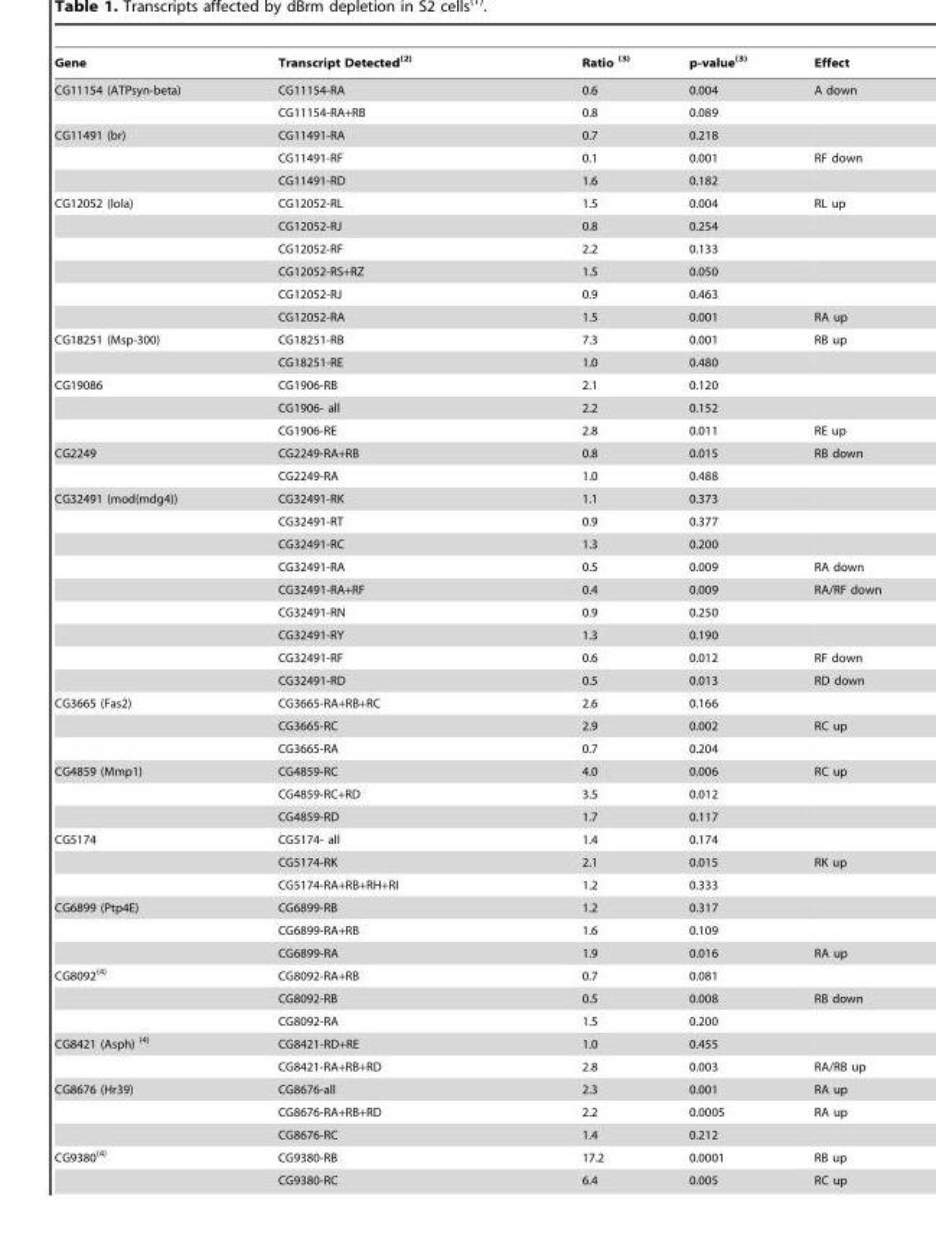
<table><thead><tr><td>Gene</td><td>Transcript Detected(2)</td><td>Ratio (3)</td><td>p-value(3)</td><td>Effect</td></tr></thead><tbody><tr><td rowspan="2">CG11154 (ATPsyn-beta)</td><td>CG11154-RA</td><td>0.6</td><td>0.004</td><td>A down</td></tr><tr><td>CG11154-RA+RB</td><td>0.8</td><td>0.089</td><td></td></tr><tr><td rowspan="3">CG11491 (br)</td><td>CG11491-RA</td><td>0.7</td><td>0.218</td><td></td></tr><tr><td>CG11491-RF</td><td>0.1</td><td>0.001</td><td>RF down</td></tr><tr><td>CG11491-RD</td><td>1.6</td><td>0.182</td><td></td></tr><tr><td rowspan="6">CG12052 (lola)</td><td>CG12052-RL</td><td>1.5</td><td>0.004</td><td>RL up</td></tr><tr><td>CG12052-RJ</td><td>0.8</td><td>0.254</td><td></td></tr><tr><td>CG12052-RF</td><td>2.2</td><td>0.133</td><td></td></tr><tr><td>CG12052-RS+RZ</td><td>1.5</td><td>0.050</td><td></td></tr><tr><td>CG12052-RJ</td><td>0.9</td><td>0.463</td><td></td></tr><tr><td>CG12052-RA</td><td>1.5</td><td>0.001</td><td>RA up</td></tr><tr><td rowspan="2">CG18251 (Msp-300)</td><td>CG18251-RB</td><td>7.3</td><td>0.001</td><td>RB up</td></tr><tr><td>CG18251-RE</td><td>1.0</td><td>0.480</td><td></td></tr><tr><td rowspan="3">CG19086</td><td>CG1906-RB</td><td>2.1</td><td>0.120</td><td></td></tr><tr><td>CG1906- all</td><td>2.2</td><td>0.152</td><td></td></tr><tr><td>CG1906-RE</td><td>2.8</td><td>0.011</td><td>RE up</td></tr><tr><td rowspan="2">CG2249</td><td>CG2249-RA+RB</td><td>0.8</td><td>0.015</td><td>RB down</td></tr><tr><td>CG2249-RA</td><td>1.0</td><td>0.488</td><td></td></tr><tr><td rowspan="9">CG32491 (mod(mdg4))</td><td>CG32491-RK</td><td>1.1</td><td>0.373</td><td></td></tr><tr><td>CG32491-RT</td><td>0.9</td><td>0.377</td><td></td></tr><tr><td>CG32491-RC</td><td>1.3</td><td>0.200</td><td></td></tr><tr><td>CG32491-RA</td><td>0.5</td><td>0.009</td><td>RA down</td></tr><tr><td>CG32491-RA+RF</td><td>0.4</td><td>0.009</td><td>RA/RF down</td></tr><tr><td>CG32491-RN</td><td>0.9</td><td>0.250</td><td></td></tr><tr><td>CG32491-RY</td><td>1.3</td><td>0.190</td><td></td></tr><tr><td>CG32491-RF</td><td>0.6</td><td>0.012</td><td>RF down</td></tr><tr><td>CG32491-RD</td><td>0.5</td><td>0.013</td><td>RD down</td></tr><tr><td rowspan="3">CG3665 (Fas2)</td><td>CG3665-RA+RB+RC</td><td>2.6</td><td>0.166</td><td></td></tr><tr><td>CG3665-RC</td><td>2.9</td><td>0.002</td><td>RC up</td></tr><tr><td>CG3665-RA</td><td>0.7</td><td>0.204</td><td></td></tr><tr><td rowspan="3">CG4859 (Mmp1)</td><td>CG4859-RC</td><td>4.0</td><td>0.006</td><td>RC up</td></tr><tr><td>CG4859-RC+RD</td><td>3.5</td><td>0.012</td><td></td></tr><tr><td>CG4859-RD</td><td>1.7</td><td>0.117</td><td></td></tr><tr><td rowspan="3">CG5174</td><td>CG5174- all</td><td>1.4</td><td>0.174</td><td></td></tr><tr><td>CG5174-RK</td><td>2.1</td><td>0.015</td><td>RK up</td></tr><tr><td>CG5174-RA+RB+RH+RI</td><td>1.2</td><td>0.333</td><td></td></tr><tr><td rowspan="3">CG6899 (Ptp4E)</td><td>CG6899-RB</td><td>1.2</td><td>0.317</td><td></td></tr><tr><td>CG6899-RA+RB</td><td>1.6</td><td>0.109</td><td></td></tr><tr><td>CG6899-RA</td><td>1.9</td><td>0.016</td><td>RA up</td></tr><tr><td rowspan="3">CG8092(4)</td><td>CG8092-RA+RB</td><td>0.7</td><td>0.081</td><td></td></tr><tr><td>CG8092-RB</td><td>0.5</td><td>0.008</td><td>RB down</td></tr><tr><td>CG8092-RA</td><td>1.5</td><td>0.200</td><td></td></tr><tr><td rowspan="2">CG8421 (Asph) (4)</td><td>CG8421-RD+RE</td><td>1.0</td><td>0.455</td><td></td></tr><tr><td>CG8421-RA+RB+RD</td><td>2.8</td><td>0.003</td><td>RA/RB up</td></tr><tr><td rowspan="3">CG8676 (Hr39)</td><td>CG8676-all</td><td>2.3</td><td>0.001</td><td>RA up</td></tr><tr><td>CG8676-RA+RB+RD</td><td>2.2</td><td>0.0005</td><td>RA up</td></tr><tr><td>CG8676-RC</td><td>1.4</td><td>0.212</td><td></td></tr><tr><td rowspan="2">CG9380(4)</td><td>CG9380-RB</td><td>17.2</td><td>0.0001</td><td>RB up</td></tr><tr><td>CG9380-RC</td><td>6.4</td><td>0.005</td><td>RC up</td></tr></tbody></table>